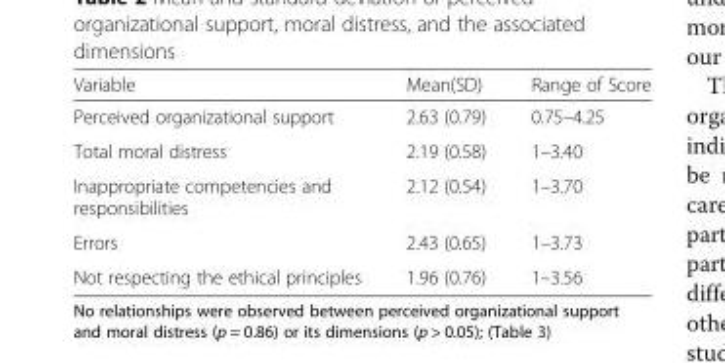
<table><thead><tr><td>Variable</td><td>Mean(SD)</td><td>Range of Score</td></tr></thead><tbody><tr><td>Perceived organizational support</td><td>2.63 (0.79)</td><td>0.75–4.25</td></tr><tr><td>Total moral distress</td><td>2.19 (0.58)</td><td>1–3.40</td></tr><tr><td>Inappropriate competencies and responsibilities</td><td>2.12 (0.54)</td><td>1–3.70</td></tr><tr><td>Errors</td><td>2.43 (0.65)</td><td>1–3.73</td></tr><tr><td>Not respecting the ethical principles</td><td>1.96 (0.76)</td><td>1–3.56</td></tr></tbody></table>